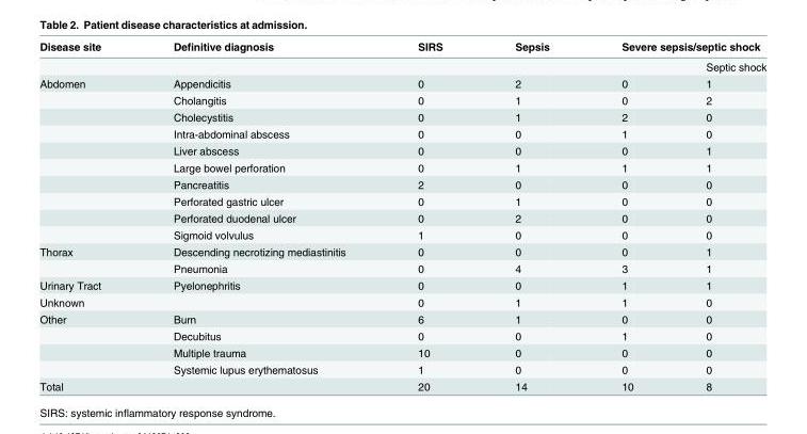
<table><thead><tr><td rowspan="2">Disease site</td><td rowspan="2">Definitive diagnosis</td><td rowspan="2">SIRS</td><td rowspan="2">Sepsis</td><td colspan="2">Severe sepsis/septic shock</td></tr><tr><td></td><td>Septic shock</td></tr></thead><tbody><tr><td rowspan="10">Abdomen</td><td>Appendicitis</td><td>0</td><td>2</td><td>0</td><td>1</td></tr><tr><td>Cholangitis</td><td>0</td><td>1</td><td>0</td><td>2</td></tr><tr><td>Cholecystitis</td><td>0</td><td>1</td><td>2</td><td>0</td></tr><tr><td>Intra-abdominal abscess</td><td>0</td><td>0</td><td>1</td><td>0</td></tr><tr><td>Liver abscess</td><td>0</td><td>0</td><td>0</td><td>1</td></tr><tr><td>Large bowel perforation</td><td>0</td><td>1</td><td>1</td><td>1</td></tr><tr><td>Pancreatitis</td><td>2</td><td>0</td><td>0</td><td>0</td></tr><tr><td>Perforated gastric ulcer</td><td>0</td><td>1</td><td>0</td><td>0</td></tr><tr><td>Perforated duodenal ulcer</td><td>0</td><td>2</td><td>0</td><td>0</td></tr><tr><td>Sigmoid volvulus</td><td>1</td><td>0</td><td>0</td><td>0</td></tr><tr><td rowspan="2">Thorax</td><td>Descending necrotizing mediastinitis</td><td>0</td><td>0</td><td>0</td><td>1</td></tr><tr><td>Pneumonia</td><td>0</td><td>4</td><td>3</td><td>1</td></tr><tr><td>Urinary Tract</td><td>Pyelonephritis</td><td>0</td><td>0</td><td>1</td><td>1</td></tr><tr><td>Unknown</td><td></td><td>0</td><td>1</td><td>1</td><td>0</td></tr><tr><td rowspan="4">Other</td><td>Burn</td><td>6</td><td>1</td><td>0</td><td>0</td></tr><tr><td>Decubitus</td><td>0</td><td>0</td><td>1</td><td>0</td></tr><tr><td>Multiple trauma</td><td>10</td><td>0</td><td>0</td><td>0</td></tr><tr><td>Systemic lupus erythematosus</td><td>1</td><td>0</td><td>0</td><td>0</td></tr><tr><td>Total</td><td></td><td>20</td><td>14</td><td>10</td><td>8</td></tr></tbody></table>